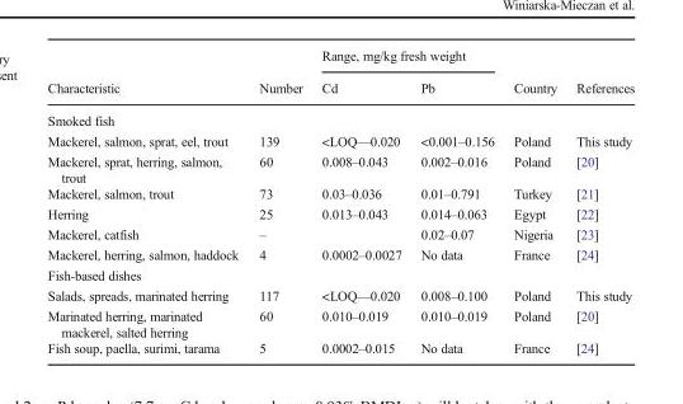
<table><thead><tr><td rowspan="2">Characteristic</td><td rowspan="2">Number</td><td colspan="2">Range, mg/kg fresh weight</td><td rowspan="2">Country</td><td rowspan="2">References</td></tr><tr><td>Cd</td><td>Pb</td></tr></thead><tbody><tr><td colspan="6">Smoked fish</td></tr><tr><td>Mackerel, salmon, sprat, eel, trout</td><td>139</td><td>&lt;LOQ—0.020</td><td>&lt;0.001–0.156</td><td>Poland</td><td>This study</td></tr><tr><td>Mackerel, sprat, herring, salmon, trout</td><td>60</td><td>0.008–0.043</td><td>0.002–0.016</td><td>Poland</td><td>[20]</td></tr><tr><td>Mackerel, salmon, trout</td><td>73</td><td>0.03–0.036</td><td>0.01–0.791</td><td>Turkey</td><td>[21]</td></tr><tr><td>Herring</td><td>25</td><td>0.013–0.043</td><td>0.014–0.063</td><td>Egypt</td><td>[22]</td></tr><tr><td>Mackerel, catfish</td><td>–</td><td></td><td>0.02–0.07</td><td>Nigeria</td><td>[23]</td></tr><tr><td>Mackerel, herring, salmon, haddock</td><td>4</td><td>0.0002–0.0027</td><td>No data</td><td>France</td><td>[24]</td></tr><tr><td colspan="6">Fish-based dishes</td></tr><tr><td>Salads, spreads, marinated herring</td><td>117</td><td>&lt;LOQ—0.020</td><td>0.008–0.100</td><td>Poland</td><td>This study</td></tr><tr><td>Marinated herring, marinated mackerel, salted herring</td><td>60</td><td>0.010–0.019</td><td>0.010–0.019</td><td>Poland</td><td>[20]</td></tr><tr><td>Fish soup, paella, surimi, tarama</td><td>5</td><td>0.0002–0.015</td><td>No data</td><td>France</td><td>[24]</td></tr></tbody></table>